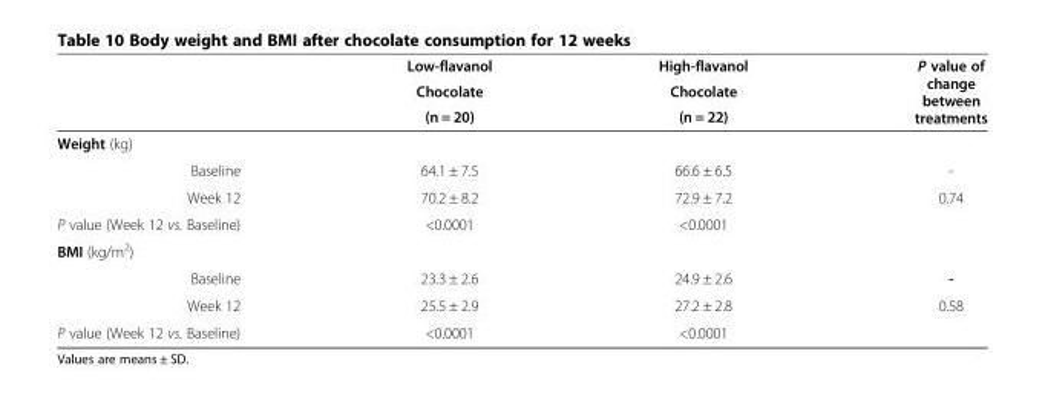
<table><thead><tr><td rowspan="3"></td><td rowspan="3">Low-flavanol Chocolate (n = 20)</td><td rowspan="3">High-flavanol Chocolate (n = 22)</td><td rowspan="3">P value of change between treatments</td></tr><tr></tr><tr></tr></thead><tbody><tr><td colspan="4">Weight (kg)</td></tr><tr><td>Baseline</td><td>64.1 ± 7.5</td><td>66.6 ± 6.5</td><td>-</td></tr><tr><td>Week 12</td><td>70.2 ± 8.2</td><td>72.9 ± 7.2</td><td>0.74</td></tr><tr><td>P value (Week 12 vs. Baseline)</td><td>&lt;0.0001</td><td>&lt;0.0001</td><td></td></tr><tr><td colspan="4">BMI (kg/m<sup>2</sup>)</td></tr><tr><td>Baseline</td><td>23.3 ± 2.6</td><td>24.9 ± 2.6</td><td>-</td></tr><tr><td>Week 12</td><td>25.5 ± 2.9</td><td>27.2 ± 2.8</td><td>0.58</td></tr><tr><td>P value (Week 12 vs. Baseline)</td><td>&lt;0.0001</td><td>&lt;0.0001</td><td></td></tr></tbody></table>